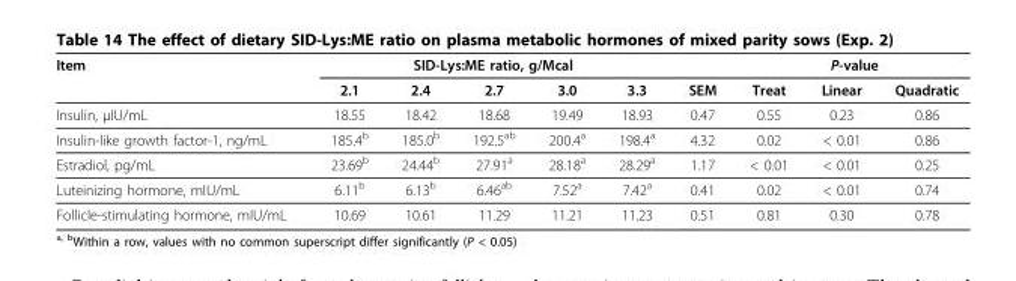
<table><thead><tr><td rowspan="2">Item</td><td colspan="5">SID-Lys:ME ratio, g/Mcal</td><td rowspan="2">SEM</td><td colspan="3">P-value</td></tr><tr><td>2.1</td><td>2.4</td><td>2.7</td><td>3.0</td><td>3.3</td><td>Treat</td><td>Linear</td><td>Quadratic</td></tr></thead><tbody><tr><td>Insulin, μIU/mL</td><td>18.55</td><td>18.42</td><td>18.68</td><td>19.49</td><td>18.93</td><td>0.47</td><td>0.55</td><td>0.23</td><td>0.86</td></tr><tr><td>Insulin-like growth factor-1, ng/mL</td><td>185.4<sup>b</sup></td><td>185.0<sup>b</sup></td><td>192.5<sup>ab</sup></td><td>200.4<sup>a</sup></td><td>198.4<sup>a</sup></td><td>4.32</td><td>0.02</td><td>&lt; 0.01</td><td>0.86</td></tr><tr><td>Estradiol, pg/mL</td><td>23.69<sup>b</sup></td><td>24.44<sup>b</sup></td><td>27.91<sup>a</sup></td><td>28.18<sup>a</sup></td><td>28.29<sup>a</sup></td><td>1.17</td><td>&lt; 0.01</td><td>&lt; 0.01</td><td>0.25</td></tr><tr><td>Luteinizing hormone, mIU/mL</td><td>6.11<sup>b</sup></td><td>6.13<sup>b</sup></td><td>6.46<sup>ab</sup></td><td>7.52<sup>a</sup></td><td>7.42<sup>a</sup></td><td>0.41</td><td>0.02</td><td>&lt; 0.01</td><td>0.74</td></tr><tr><td>Follicle-stimulating hormone, mIU/mL</td><td>10.69</td><td>10.61</td><td>11.29</td><td>11.21</td><td>11.23</td><td>0.51</td><td>0.81</td><td>0.30</td><td>0.78</td></tr></tbody></table>